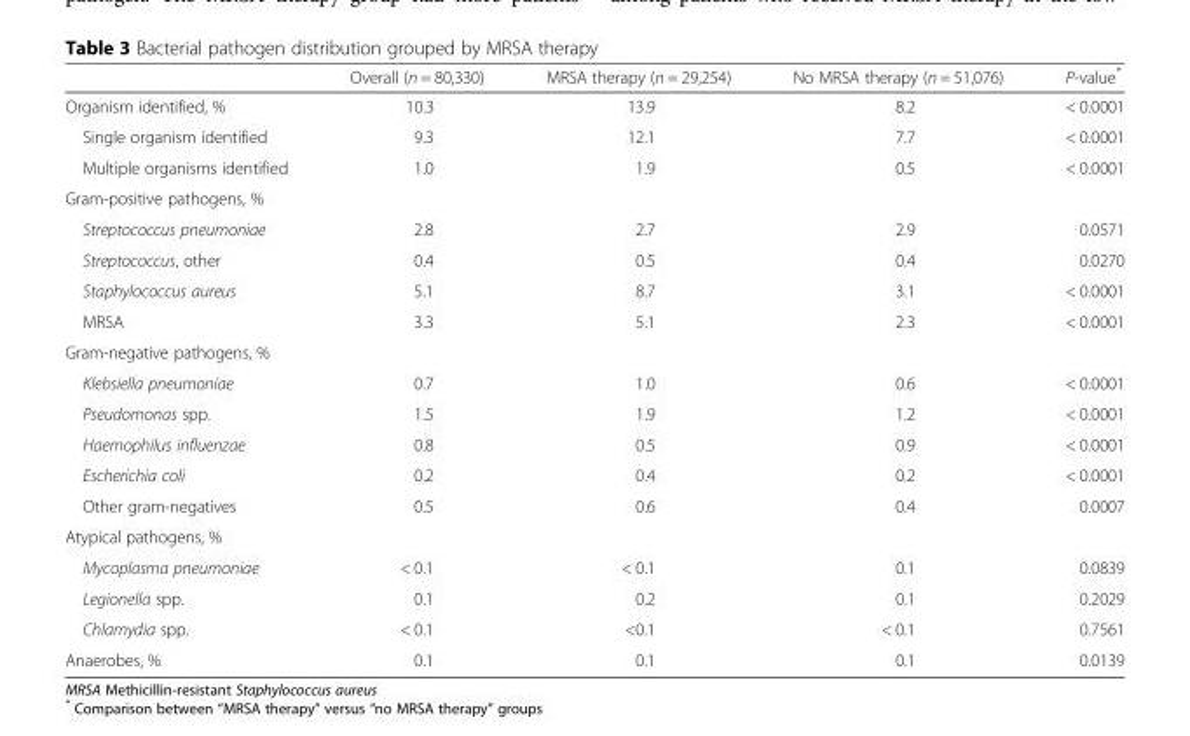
<table><thead><tr><td></td><td>Overall (n = 80,330)</td><td>MRSA therapy (n = 29,254)</td><td>No MRSA therapy (n = 51,076)</td><td>P-value*</td></tr></thead><tbody><tr><td>Organism identified, %</td><td>10.3</td><td>13.9</td><td>8.2</td><td>&lt; 0.0001</td></tr><tr><td>Single organism identified</td><td>9.3</td><td>12.1</td><td>7.7</td><td>&lt; 0.0001</td></tr><tr><td>Multiple organisms identified</td><td>1.0</td><td>1.9</td><td>0.5</td><td>&lt; 0.0001</td></tr><tr><td colspan="5">Gram-positive pathogens, %</td></tr><tr><td>Streptococcus pneumoniae</td><td>2.8</td><td>2.7</td><td>2.9</td><td>0.0571</td></tr><tr><td>Streptococcus, other</td><td>0.4</td><td>0.5</td><td>0.4</td><td>0.0270</td></tr><tr><td>Staphylococcus aureus</td><td>5.1</td><td>8.7</td><td>3.1</td><td>&lt; 0.0001</td></tr><tr><td>MRSA</td><td>3.3</td><td>5.1</td><td>2.3</td><td>&lt; 0.0001</td></tr><tr><td colspan="5">Gram-negative pathogens, %</td></tr><tr><td>Klebsiella pneumoniae</td><td>0.7</td><td>1.0</td><td>0.6</td><td>&lt; 0.0001</td></tr><tr><td>Pseudomonas spp.</td><td>1.5</td><td>1.9</td><td>1.2</td><td>&lt; 0.0001</td></tr><tr><td>Haemophilus influenzae</td><td>0.8</td><td>0.5</td><td>0.9</td><td>&lt; 0.0001</td></tr><tr><td>Escherichia coli</td><td>0.2</td><td>0.4</td><td>0.2</td><td>&lt; 0.0001</td></tr><tr><td>Other gram-negatives</td><td>0.5</td><td>0.6</td><td>0.4</td><td>0.0007</td></tr><tr><td colspan="5">Atypical pathogens, %</td></tr><tr><td>Mycoplasma pneumoniae</td><td>&lt; 0.1</td><td>&lt; 0.1</td><td>0.1</td><td>0.0839</td></tr><tr><td>Legionella spp.</td><td>0.1</td><td>0.2</td><td>0.1</td><td>0.2029</td></tr><tr><td>Chlamydia spp.</td><td>&lt; 0.1</td><td>&lt;0.1</td><td>&lt; 0.1</td><td>0.7561</td></tr><tr><td>Anaerobes, %</td><td>0.1</td><td>0.1</td><td>0.1</td><td>0.0139</td></tr></tbody></table>